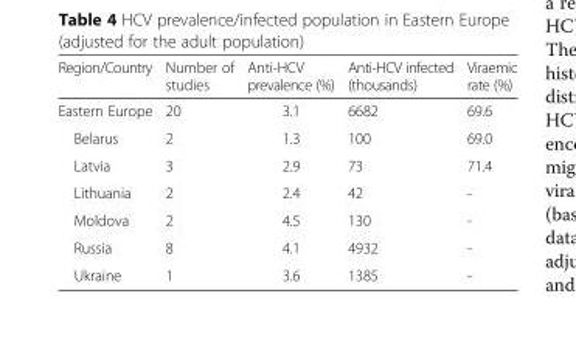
<table><thead><tr><td>Region/Country</td><td>Number of studies</td><td>Anti-HCV prevalence (%)</td><td>Anti-HCV infected (thousands)</td><td>Viraemic rate (%)</td></tr></thead><tbody><tr><td>Eastern Europe</td><td>20</td><td>3.1</td><td>6682</td><td>69.6</td></tr><tr><td>Belarus</td><td>2</td><td>1.3</td><td>100</td><td>69.0</td></tr><tr><td>Latvia</td><td>3</td><td>2.9</td><td>73</td><td>71.4</td></tr><tr><td>Lithuania</td><td>2</td><td>2.4</td><td>42</td><td>-</td></tr><tr><td>Moldova</td><td>2</td><td>4.5</td><td>130</td><td>-</td></tr><tr><td>Russia</td><td>8</td><td>4.1</td><td>4932</td><td>-</td></tr><tr><td>Ukraine</td><td>1</td><td>3.6</td><td>1385</td><td>-</td></tr></tbody></table>